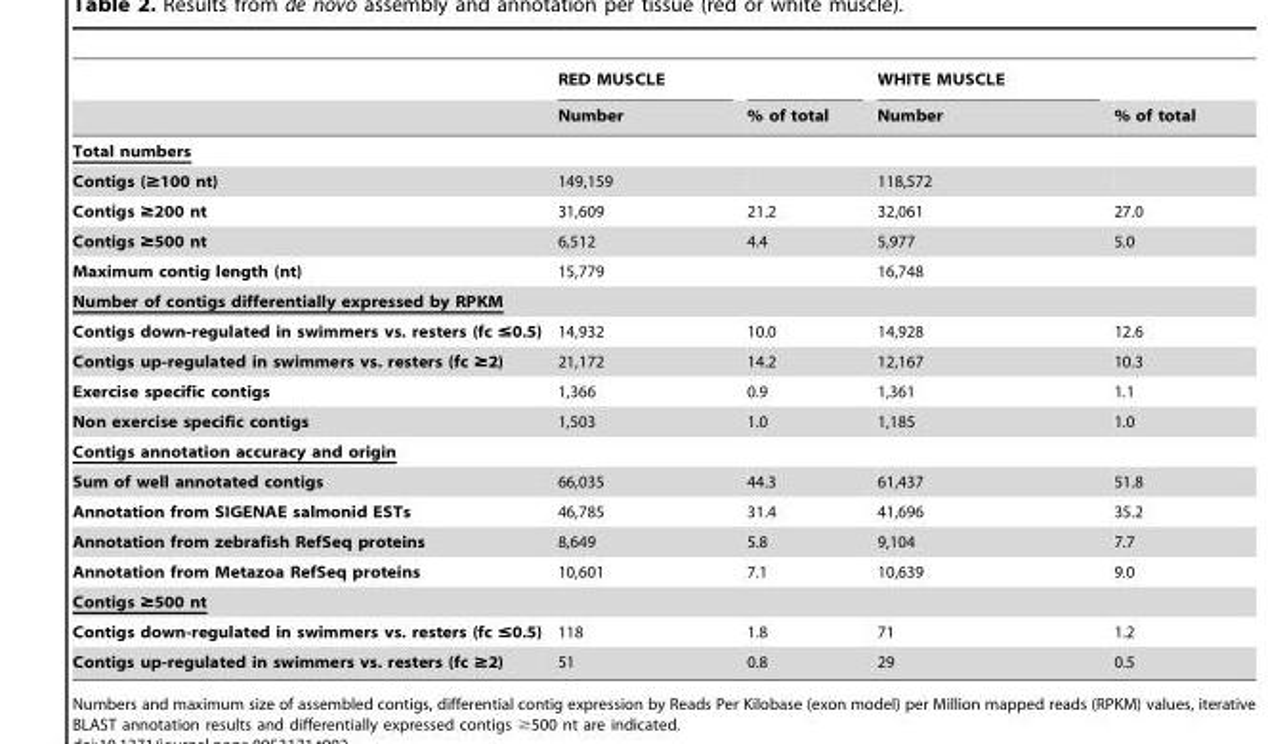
<table><thead><tr><td rowspan="2"></td><td rowspan="2">RED MUSCLE Number</td><td rowspan="2">% of total</td><td rowspan="2">WHITE MUSCLE Number</td><td rowspan="2">% of total</td></tr><tr></tr></thead><tbody><tr><td colspan="5">Total numbers</td></tr><tr><td>Contigs (≥100 nt)</td><td>149,159</td><td></td><td>118,572</td><td></td></tr><tr><td>Contigs ≥200 nt</td><td>31,609</td><td>21.2</td><td>32,061</td><td>27.0</td></tr><tr><td>Contigs ≥500 nt</td><td>6,512</td><td>4.4</td><td>5,977</td><td>5.0</td></tr><tr><td>Maximum contig length (nt)</td><td>15,779</td><td></td><td>16,748</td><td></td></tr><tr><td colspan="5">Number of contigs differentially expressed by RPKM</td></tr><tr><td>Contigs down-regulated in swimmers vs. resters (fc ≤0.5)</td><td>14,932</td><td>10.0</td><td>14,928</td><td>12.6</td></tr><tr><td>Contigs up-regulated in swimmers vs. resters (fc ≥2)</td><td>21,172</td><td>14.2</td><td>12,167</td><td>10.3</td></tr><tr><td>Exercise specific contigs</td><td>1,366</td><td>0.9</td><td>1,361</td><td>1.1</td></tr><tr><td>Non exercise specific contigs</td><td>1,503</td><td>1.0</td><td>1,185</td><td>1.0</td></tr><tr><td colspan="5">Contigs annotation accuracy and origin</td></tr><tr><td>Sum of well annotated contigs</td><td>66,035</td><td>44.3</td><td>61,437</td><td>51.8</td></tr><tr><td>Annotation from SIGENAE salmonid ESTs</td><td>46,785</td><td>31.4</td><td>41,696</td><td>35.2</td></tr><tr><td>Annotation from zebrafish RefSeq proteins</td><td>8,649</td><td>5.8</td><td>9,104</td><td>7.7</td></tr><tr><td>Annotation from Metazoa RefSeq proteins</td><td>10,601</td><td>7.1</td><td>10,639</td><td>9.0</td></tr><tr><td colspan="5">Contigs ≥500 nt</td></tr><tr><td>Contigs down-regulated in swimmers vs. resters (fc ≤0.5)</td><td>118</td><td>1.8</td><td>71</td><td>1.2</td></tr><tr><td>Contigs up-regulated in swimmers vs. resters (fc ≥2)</td><td>51</td><td>0.8</td><td>29</td><td>0.5</td></tr></tbody></table>